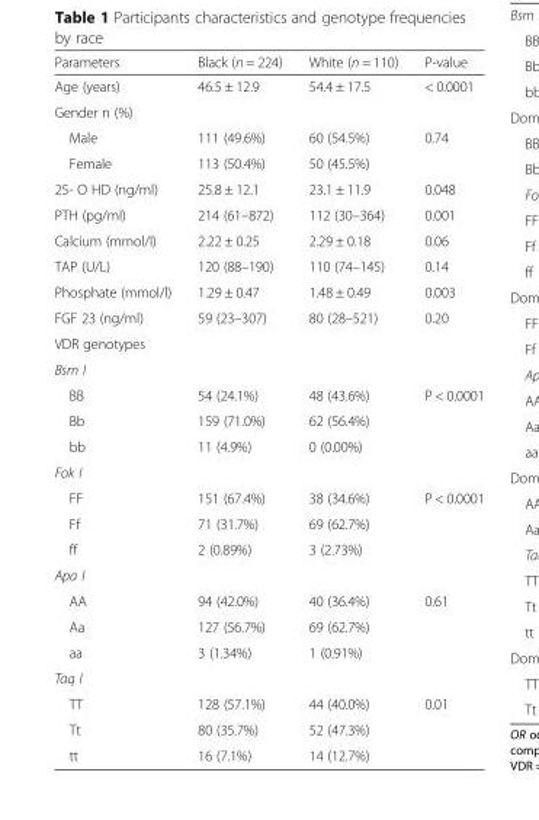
<table><thead><tr><td>Parameters</td><td>Black (n = 224)</td><td>White (n = 110)</td><td>P-value</td></tr></thead><tbody><tr><td>Age (years)</td><td>46.5 ± 12.9</td><td>54.4 ± 17.5</td><td>&lt; 0.0001</td></tr><tr><td colspan="4">Gender n (%)</td></tr><tr><td>Male</td><td>111 (49.6%)</td><td>60 (54.5%)</td><td rowspan="2">0.74</td></tr><tr><td>Female</td><td>113 (50.4%)</td><td>50 (45.5%)</td></tr><tr><td>25- O HD (ng/ml)</td><td>25.8 ± 12.1</td><td>23.1 ± 11.9</td><td>0.048</td></tr><tr><td>PTH (pg/ml)</td><td>214 (61–872)</td><td>112 (30–364)</td><td>0.001</td></tr><tr><td>Calcium (mmol/l)</td><td>2.22 ± 0.25</td><td>2.29 ± 0.18</td><td>0.06</td></tr><tr><td>TAP (U/L)</td><td>120 (88–190)</td><td>110 (74–145)</td><td>0.14</td></tr><tr><td>Phosphate (mmol/l)</td><td>1.29 ± 0.47</td><td>1.48 ± 0.49</td><td>0.003</td></tr><tr><td>FGF 23 (ng/ml)</td><td>59 (23–307)</td><td>80 (28–521)</td><td>0.20</td></tr><tr><td colspan="4">VDR genotypes</td></tr><tr><td colspan="4">Bsm I</td></tr><tr><td>BB</td><td>54 (24.1%)</td><td>48 (43.6%)</td><td rowspan="3">P &lt; 0.0001</td></tr><tr><td>Bb</td><td>159 (71.0%)</td><td>62 (56.4%)</td></tr><tr><td>bb</td><td>11 (4.9%)</td><td>0 (0.00%)</td></tr><tr><td colspan="4">Fok I</td></tr><tr><td>FF</td><td>151 (67.4%)</td><td>38 (34.6%)</td><td rowspan="3">P &lt; 0.0001</td></tr><tr><td>Ff</td><td>71 (31.7%)</td><td>69 (62.7%)</td></tr><tr><td>ff</td><td>2 (0.89%)</td><td>3 (2.73%)</td></tr><tr><td colspan="4">Apa I</td></tr><tr><td>AA</td><td>94 (42.0%)</td><td>40 (36.4%)</td><td rowspan="3">0.61</td></tr><tr><td>Aa</td><td>127 (56.7%)</td><td>69 (62.7%)</td></tr><tr><td>aa</td><td>3 (1.34%)</td><td>1 (0.91%)</td></tr><tr><td colspan="4">Taq I</td></tr><tr><td>TT</td><td>128 (57.1%)</td><td>44 (40.0%)</td><td rowspan="3">0.01</td></tr><tr><td>Tt</td><td>80 (35.7%)</td><td>52 (47.3%)</td></tr><tr><td>tt</td><td>16 (7.1%)</td><td>14 (12.7%)</td></tr></tbody></table>